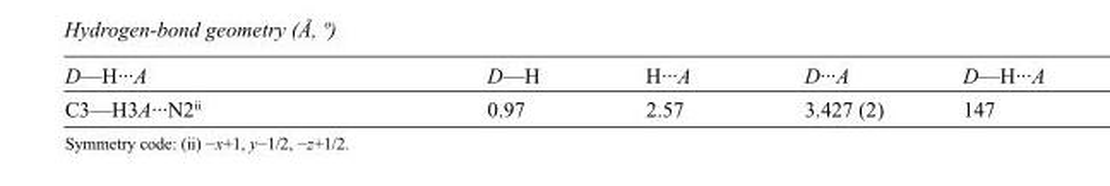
<table><tbody><tr><td>D—H···A</td><td>D—H</td><td>H···A</td><td>D···A</td><td>D—H···A</td></tr><tr><td>C3—H3A···N2<sup>ii</sup></td><td>0.97</td><td>2.57</td><td>3.427 (2)</td><td>147</td></tr></tbody></table>